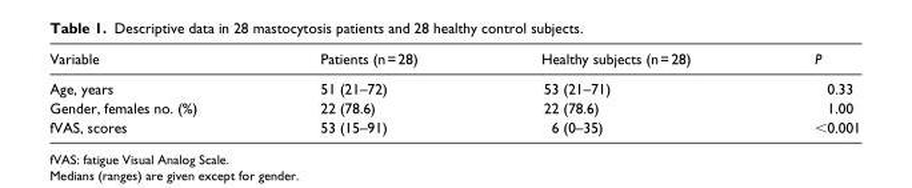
<table><thead><tr><td>Variable</td><td>Patients (n = 28)</td><td>Healthy subjects (n = 28)</td><td>P</td></tr></thead><tbody><tr><td>Age, years</td><td>51 (21–72)</td><td>53 (21–71)</td><td>0.33</td></tr><tr><td>Gender, females no. (%)</td><td>22 (78.6)</td><td>22 (78.6)</td><td>1.00</td></tr><tr><td>fVAS, scores</td><td>53 (15–91)</td><td>6 (0–35)</td><td>&lt;0.001</td></tr></tbody></table>